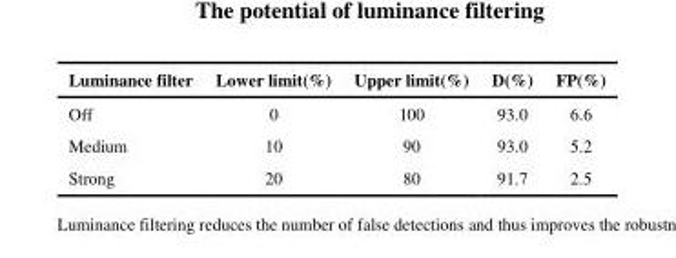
<table><thead><tr><td>Luminance filter</td><td>Lower limit(%)</td><td>Upper limit(%)</td><td>D(%)</td><td>FP(%)</td></tr></thead><tbody><tr><td>Off</td><td>0</td><td>100</td><td>93.0</td><td>6.6</td></tr><tr><td>Medium</td><td>10</td><td>90</td><td>93.0</td><td>5.2</td></tr><tr><td>Strong</td><td>20</td><td>80</td><td>91.7</td><td>2.5</td></tr></tbody></table>